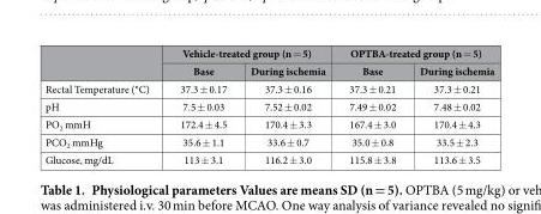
<table><thead><tr><td rowspan="2"></td><td colspan="2">Vehicle-treated group (n = 5)</td><td colspan="2">OPTBA-treated group (n = 5)</td></tr><tr><td>Base</td><td>During ischemia</td><td>Base</td><td>During ischemia</td></tr></thead><tbody><tr><td>Rectal Temperature (°C)</td><td>37.3 ± 0.17</td><td>37.3 ± 0.16</td><td>37.3 ± 0.21</td><td>37.3 ± 0.21</td></tr><tr><td>pH</td><td>7.5 ± 0.03</td><td>7.52 ± 0.02</td><td>7.49 ± 0.02</td><td>7.48 ± 0.02</td></tr><tr><td>PO<sub>2</sub> mmH</td><td>172.4 ± 4.5</td><td>170.4 ± 3.3</td><td>167.4 ± 3.0</td><td>170.4 ± 4.3</td></tr><tr><td>PCO<sub>2</sub> mmHg</td><td>35.6 ± 1.1</td><td>33.6 ± 0.7</td><td>35.0 ± 0.8</td><td>33.5 ± 2.3</td></tr><tr><td>Glucose, mg/dL</td><td>113 ± 3.1</td><td>116.2 ± 3.0</td><td>115.8 ± 3.8</td><td>113.6 ± 3.5</td></tr></tbody></table>